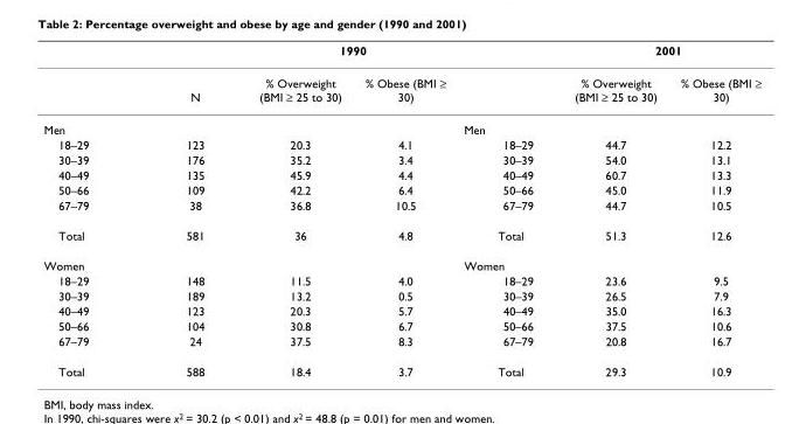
<table><thead><tr><td rowspan="2"></td><td rowspan="2">N</td><td colspan="2">1990</td><td rowspan="2"></td><td colspan="2">2001</td></tr><tr><td>% Overweight (BMI ≥ 25 to 30)</td><td>% Obese (BMI ≥ 30)</td><td>% Overweight (BMI ≥ 25 to 30)</td><td>% Obese (BMI ≥ 30)</td></tr></thead><tbody><tr><td>Men</td><td></td><td></td><td></td><td>Men</td><td></td><td></td></tr><tr><td>18–29</td><td>123</td><td>20.3</td><td>4.1</td><td>18–29</td><td>44.7</td><td>12.2</td></tr><tr><td>30–39</td><td>176</td><td>35.2</td><td>3.4</td><td>30–39</td><td>54.0</td><td>13.1</td></tr><tr><td>40–49</td><td>135</td><td>45.9</td><td>4.4</td><td>40–49</td><td>60.7</td><td>13.3</td></tr><tr><td>50–66</td><td>109</td><td>42.2</td><td>6.4</td><td>50–66</td><td>45.0</td><td>11.9</td></tr><tr><td>67–79</td><td>38</td><td>36.8</td><td>10.5</td><td>67–79</td><td>44.7</td><td>10.5</td></tr><tr><td>Total</td><td>581</td><td>36</td><td>4.8</td><td>Total</td><td>51.3</td><td>12.6</td></tr><tr><td>Women</td><td></td><td></td><td></td><td>Women</td><td></td><td></td></tr><tr><td>18–29</td><td>148</td><td>11.5</td><td>4.0</td><td>18–29</td><td>23.6</td><td>9.5</td></tr><tr><td>30–39</td><td>189</td><td>13.2</td><td>0.5</td><td>30–39</td><td>26.5</td><td>7.9</td></tr><tr><td>40–49</td><td>123</td><td>20.3</td><td>5.7</td><td>40–49</td><td>35.0</td><td>16.3</td></tr><tr><td>50–66</td><td>104</td><td>30.8</td><td>6.7</td><td>50–66</td><td>37.5</td><td>10.6</td></tr><tr><td>67–79</td><td>24</td><td>37.5</td><td>8.3</td><td>67–79</td><td>20.8</td><td>16.7</td></tr><tr><td>Total</td><td>588</td><td>18.4</td><td>3.7</td><td>Total</td><td>29.3</td><td>10.9</td></tr></tbody></table>